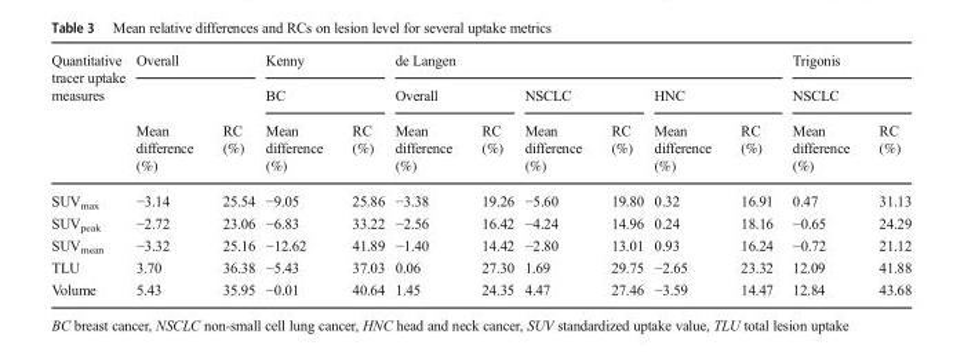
<table><thead><tr><td rowspan="3">Quantitative tracer uptake measures</td><td colspan="2">Overall</td><td rowspan="2" colspan="2">Kenny BC</td><td colspan="6">de Langen</td><td rowspan="2" colspan="2">Trigonis NSCLC</td></tr><tr><td rowspan="2">Mean difference (%)</td><td rowspan="2">RC (%)</td><td colspan="2">Overall</td><td colspan="2">NSCLC</td><td colspan="2">HNC</td></tr><tr><td>Mean difference (%)</td><td>RC (%)</td><td>Mean difference (%)</td><td>RC (%)</td><td>Mean difference (%)</td><td>RC (%)</td><td>Mean difference (%)</td><td>RC (%)</td><td>Mean difference (%)</td><td>RC (%)</td></tr></thead><tbody><tr><td>SUV<sub>max</sub></td><td>−3.14</td><td>25.54</td><td>−9.05</td><td>25.86</td><td>−3.38</td><td>19.26</td><td>−5.60</td><td>19.80</td><td>0.32</td><td>16.91</td><td>0.47</td><td>31.13</td></tr><tr><td>SUV<sub>peak</sub></td><td>−2.72</td><td>23.06</td><td>−6.83</td><td>33.22</td><td>−2.56</td><td>16.42</td><td>−4.24</td><td>14.96</td><td>0.24</td><td>18.16</td><td>−0.65</td><td>24.29</td></tr><tr><td>SUV<sub>mean</sub></td><td>−3.32</td><td>25.16</td><td>−12.62</td><td>41.89</td><td>−1.40</td><td>14.42</td><td>−2.80</td><td>13.01</td><td>0.93</td><td>16.24</td><td>−0.72</td><td>21.12</td></tr><tr><td>TLU</td><td>3.70</td><td>36.38</td><td>−5.43</td><td>37.03</td><td>0.06</td><td>27.30</td><td>1.69</td><td>29.75</td><td>−2.65</td><td>23.32</td><td>12.09</td><td>41.88</td></tr><tr><td>Volume</td><td>5.43</td><td>35.95</td><td>−0.01</td><td>40.64</td><td>1.45</td><td>24.35</td><td>4.47</td><td>27.46</td><td>−3.59</td><td>14.47</td><td>12.84</td><td>43.68</td></tr></tbody></table>